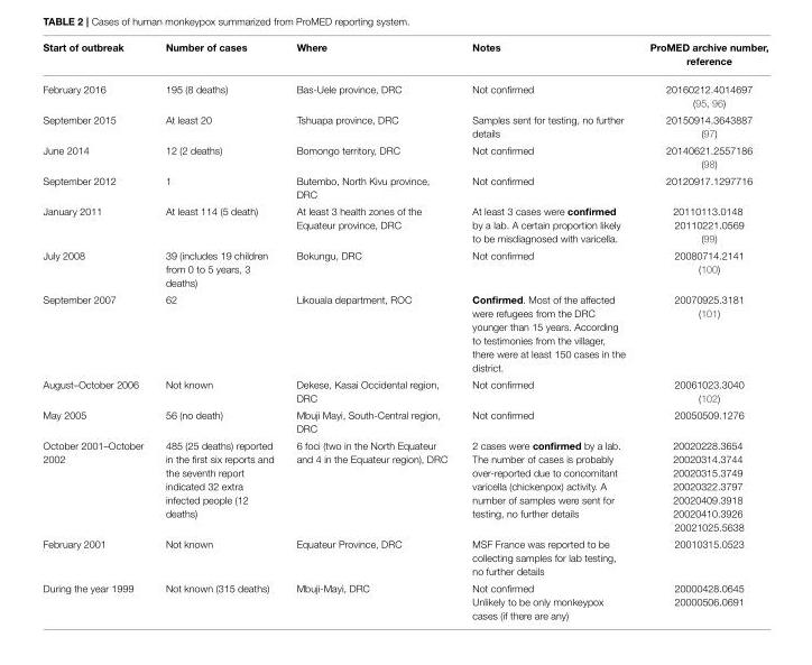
<table><thead><tr><td>Start of outbreak</td><td>Number of cases</td><td>Where</td><td>Notes</td><td>ProMED archive number, reference</td></tr></thead><tbody><tr><td>February 2016</td><td>195 (8 deaths)</td><td>Bas-Uele province, DRC</td><td>Not confirmed</td><td>20160212.4014697 (95, 96)</td></tr><tr><td>September 2015</td><td>At least 20</td><td>Tshuapa province, DRC</td><td>Samples sent for testing, no further details</td><td>20150914.3643887 (97)</td></tr><tr><td>June 2014</td><td>12 (2 deaths)</td><td>Bomongo territory, DRC</td><td>Not confirmed</td><td>20140621.2557186 (98)</td></tr><tr><td>September 2012</td><td>1</td><td>Butembo, North Kivu province, DRC</td><td>Not confirmed</td><td>20120917.1297716</td></tr><tr><td>January 2011</td><td>At least 114 (5 death)</td><td>At least 3 health zones of the Equateur province, DRC</td><td>At least 3 cases were confirmed by a lab. A certain proportion likely to be misdiagnosed with varicella.</td><td>20110113.0148 20110221.0569 (99)</td></tr><tr><td>July 2008</td><td>39 (includes 19 children from 0 to 5 years, 3 deaths)</td><td>Bokungu, DRC</td><td>Not confirmed</td><td>20080714.2141 (100)</td></tr><tr><td>September 2007</td><td>62</td><td>Likouala department, ROC</td><td>Confirmed. Most of the affected were refugees from the DRC younger than 15 years. According to testimonies from the villager, there were at least 150 cases in the district.</td><td>20070925.3181 (101)</td></tr><tr><td>August–October 2006</td><td>Not known</td><td>Dekese, Kasai Occidental region, DRC</td><td>Not confirmed</td><td>20061023.3040 (102)</td></tr><tr><td>May 2005</td><td>56 (no death)</td><td>Mbuji Mayi, South-Central region, DRC</td><td>Not confirmed</td><td>20050509.1276</td></tr><tr><td>October 2001–October 2002</td><td>485 (25 deaths) reported in the first six reports and the seventh report indicated 32 extra infected people (12 deaths)</td><td>6 foci (two in the North Equateur and 4 in the Equateur region), DRC</td><td>2 cases were confirmed by a lab. The number of cases is probably over-reported due to concomitant varicella (chickenpox) activity. A number of samples were sent for testing, no further details</td><td>20020228.3654 20020314.3744 20020315.3749 20020322.3797 20020409.3918 20020410.3926 20021025.5638</td></tr><tr><td>February 2001</td><td>Not known</td><td>Equateur Province, DRC</td><td>MSF France was reported to be collecting samples for lab testing, no further details</td><td>20010315.0523</td></tr><tr><td>During the year 1999</td><td>Not known (315 deaths)</td><td>Mbuji-Mayi, DRC</td><td>Not confirmed Unlikely to be only monkeypox cases (if there are any)</td><td>20000428.0645 20000506.0691</td></tr></tbody></table>